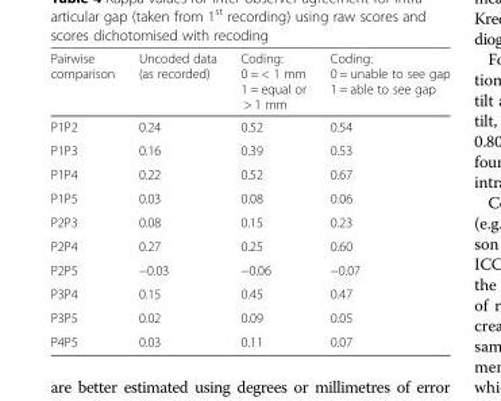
<table><thead><tr><td>Pairwise comparison</td><td>Uncoded data (as recorded)</td><td>Coding: 0 = &lt; 1 mm 1 = equal or &gt; 1 mm</td><td>Coding: 0 = unable to see gap 1 = able to see gap</td></tr></thead><tbody><tr><td>P1P2</td><td>0.24</td><td>0.52</td><td>0.54</td></tr><tr><td>P1P3</td><td>0.16</td><td>0.39</td><td>0.53</td></tr><tr><td>P1P4</td><td>0.22</td><td>0.52</td><td>0.67</td></tr><tr><td>P1P5</td><td>0.03</td><td>0.08</td><td>0.06</td></tr><tr><td>P2P3</td><td>0.08</td><td>0.15</td><td>0.23</td></tr><tr><td>P2P4</td><td>0.27</td><td>0.25</td><td>0.60</td></tr><tr><td>P2P5</td><td>−0.03</td><td>−0.06</td><td>−0.07</td></tr><tr><td>P3P4</td><td>0.15</td><td>0.45</td><td>0.47</td></tr><tr><td>P3P5</td><td>0.02</td><td>0.09</td><td>0.05</td></tr><tr><td>P4P5</td><td>0.03</td><td>0.11</td><td>0.07</td></tr></tbody></table>